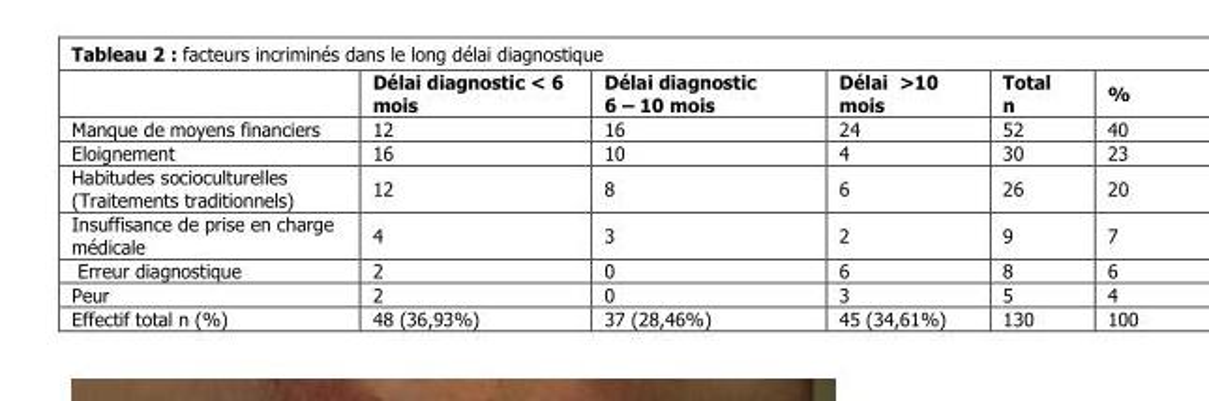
<table><thead><tr><td></td><td>Délai diagnostic &lt; 6 mois</td><td>Délai diagnostic 6 – 10 mois</td><td>Délai &gt;10 mois</td><td>Total n</td><td>%</td></tr></thead><tbody><tr><td>Manque de moyens financiers</td><td>12</td><td>16</td><td>24</td><td>52</td><td>40</td></tr><tr><td>Eloignement</td><td>16</td><td>10</td><td>4</td><td>30</td><td>23</td></tr><tr><td>Habitudes socioculturelles (Traitements traditionnels)</td><td>12</td><td>8</td><td>6</td><td>26</td><td>20</td></tr><tr><td>Insuffisance de prise en charge médicale</td><td>4</td><td>3</td><td>2</td><td>9</td><td>7</td></tr><tr><td>Erreur diagnostique</td><td>2</td><td>0</td><td>6</td><td>8</td><td>6</td></tr><tr><td>Peur</td><td>2</td><td>0</td><td>3</td><td>5</td><td>4</td></tr><tr><td>Effectif total n (%)</td><td>48 (36,93%)</td><td>37 (28,46%)</td><td>45 (34,61%)</td><td>130</td><td>100</td></tr></tbody></table>